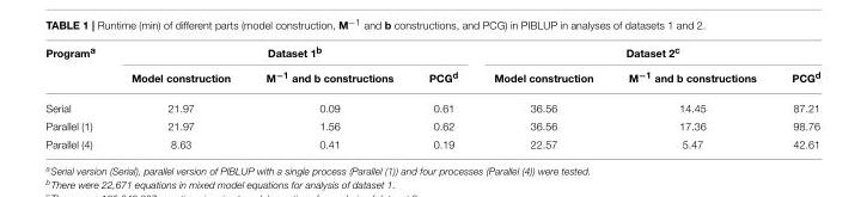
<table><thead><tr><td rowspan="2">Program<sup>a</sup></td><td colspan="3">Dataset 1<sup>b</sup></td><td colspan="3">Dataset 2<sup>c</sup></td></tr><tr><td>Model construction</td><td>M<sup>−1</sup> and b constructions</td><td>PCG<sup>d</sup></td><td>Model construction</td><td>M<sup>−1</sup> and b constructions</td><td>PCG<sup>d</sup></td></tr></thead><tbody><tr><td>Serial</td><td>21.97</td><td>0.09</td><td>0.61</td><td>36.56</td><td>14.45</td><td>87.21</td></tr><tr><td>Parallel (1)</td><td>21.97</td><td>1.56</td><td>0.62</td><td>36.56</td><td>17.36</td><td>98.76</td></tr><tr><td>Parallel (4)</td><td>8.63</td><td>0.41</td><td>0.19</td><td>22.57</td><td>5.47</td><td>42.61</td></tr></tbody></table>